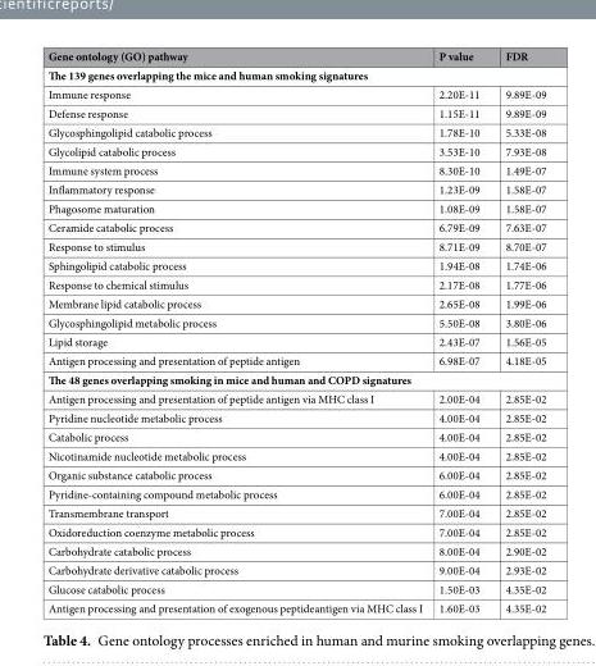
<table><thead><tr><td>Gene ontology (GO) pathway</td><td>P value</td><td>FDR</td></tr></thead><tbody><tr><td colspan="3">The 139 genes overlapping the mice and human smoking signatures</td></tr><tr><td>Immune response</td><td>2.20E-11</td><td>9.89E-09</td></tr><tr><td>Defense response</td><td>1.15E-11</td><td>9.89E-09</td></tr><tr><td>Glycosphingolipid catabolic process</td><td>1.78E-10</td><td>5.33E-08</td></tr><tr><td>Glycolipid catabolic process</td><td>3.53E-10</td><td>7.93E-08</td></tr><tr><td>Immune system process</td><td>8.30E-10</td><td>1.49E-07</td></tr><tr><td>Inflammatory response</td><td>1.23E-09</td><td>1.58E-07</td></tr><tr><td>Phagosome maturation</td><td>1.08E-09</td><td>1.58E-07</td></tr><tr><td>Ceramide catabolic process</td><td>6.79E-09</td><td>7.63E-07</td></tr><tr><td>Response to stimulus</td><td>8.71E-09</td><td>8.70E-07</td></tr><tr><td>Sphingolipid catabolic process</td><td>1.94E-08</td><td>1.74E-06</td></tr><tr><td>Response to chemical stimulus</td><td>2.17E-08</td><td>1.77E-06</td></tr><tr><td>Membrane lipid catabolic process</td><td>2.65E-08</td><td>1.99E-06</td></tr><tr><td>Glycosphingolipid metabolic process</td><td>5.50E-08</td><td>3.80E-06</td></tr><tr><td>Lipid storage</td><td>2.43E-07</td><td>1.56E-05</td></tr><tr><td>Antigen processing and presentation of peptide antigen</td><td>6.98E-07</td><td>4.18E-05</td></tr><tr><td colspan="3">The 48 genes overlapping smoking in mice and human and COPD signatures</td></tr><tr><td>Antigen processing and presentation of peptide antigen via MHC class I</td><td>2.00E-04</td><td>2.85E-02</td></tr><tr><td>Pyridine nucleotide metabolic process</td><td>4.00E-04</td><td>2.85E-02</td></tr><tr><td>Catabolic process</td><td>4.00E-04</td><td>2.85E-02</td></tr><tr><td>Nicotinamide nucleotide metabolic process</td><td>4.00E-04</td><td>2.85E-02</td></tr><tr><td>Organic substance catabolic process</td><td>6.00E-04</td><td>2.85E-02</td></tr><tr><td>Pyridine-containing compound metabolic process</td><td>6.00E-04</td><td>2.85E-02</td></tr><tr><td>Transmembrane transport</td><td>7.00E-04</td><td>2.85E-02</td></tr><tr><td>Oxidoreduction coenzyme metabolic process</td><td>7.00E-04</td><td>2.85E-02</td></tr><tr><td>Carbohydrate catabolic process</td><td>8.00E-04</td><td>2.90E-02</td></tr><tr><td>Carbohydrate derivative catabolic process</td><td>9.00E-04</td><td>2.93E-02</td></tr><tr><td>Glucose catabolic process</td><td>1.50E-03</td><td>4.35E-02</td></tr><tr><td>Antigen processing and presentation of exogenous peptideantigen via MHC class I</td><td>1.60E-03</td><td>4.35E-02</td></tr></tbody></table>